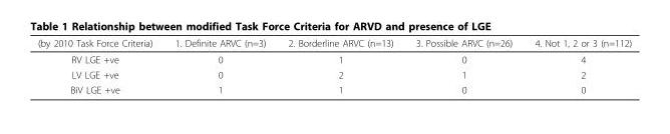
<table><thead><tr><td>(by 2010 Task Force Criteria)</td><td>1. Definite ARVC (n=3)</td><td>2. Borderline ARVC (n=13)</td><td>3. Possible ARVC (n=26)</td><td>4. Not 1, 2 or 3 (n=112)</td></tr></thead><tbody><tr><td>RV LGE +ve</td><td>0</td><td>1</td><td>0</td><td>4</td></tr><tr><td>LV LGE +ve</td><td>0</td><td>2</td><td>1</td><td>2</td></tr><tr><td>BiV LGE +ve</td><td>1</td><td>1</td><td>0</td><td>0</td></tr></tbody></table>